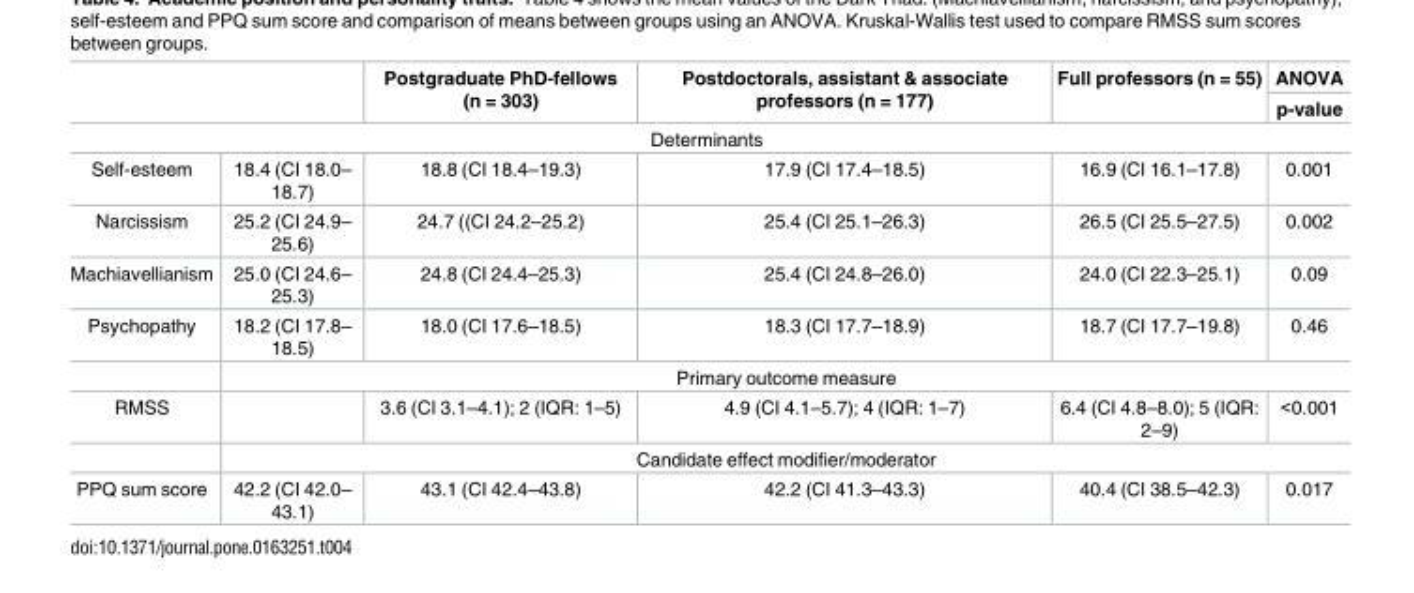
<table><thead><tr><td rowspan="2"></td><td rowspan="2"></td><td rowspan="2">Postgraduate PhD-fellows (n = 303)</td><td rowspan="2">Postdoctorals, assistant &amp; associate professors (n = 177)</td><td rowspan="2">Full professors (n = 55)</td><td rowspan="2">ANOVA p-value</td></tr><tr></tr></thead><tbody><tr><td colspan="6">Determinants</td></tr><tr><td>Self-esteem</td><td>18.4 (CI 18.0– 18.7)</td><td>18.8 (CI 18.4–19.3)</td><td>17.9 (CI 17.4–18.5)</td><td>16.9 (CI 16.1–17.8)</td><td>0.001</td></tr><tr><td>Narcissism</td><td>25.2 (CI 24.9– 25.6)</td><td>24.7 ((CI 24.2–25.2)</td><td>25.4 (CI 25.1–26.3)</td><td>26.5 (CI 25.5–27.5)</td><td>0.002</td></tr><tr><td>Machiavellianism</td><td>25.0 (CI 24.6– 25.3)</td><td>24.8 (CI 24.4–25.3)</td><td>25.4 (CI 24.8–26.0)</td><td>24.0 (CI 22.3–25.1)</td><td>0.09</td></tr><tr><td rowspan="2">Psychopathy</td><td>18.2 (CI 17.8– 18.5)</td><td>18.0 (CI 17.6–18.5)</td><td>18.3 (CI 17.7–18.9)</td><td>18.7 (CI 17.7–19.8)</td><td>0.46</td></tr><tr><td colspan="5">Primary outcome measure</td></tr><tr><td rowspan="2">RMSS</td><td></td><td>3.6 (CI 3.1–4.1); 2 (IQR: 1–5)</td><td>4.9 (CI 4.1–5.7); 4 (IQR: 1–7)</td><td>6.4 (CI 4.8–8.0); 5 (IQR: 2–9)</td><td>&lt;0.001</td></tr><tr><td colspan="5">Candidate effect modifier/moderator</td></tr><tr><td>PPQ sum score</td><td>42.2 (CI 42.0– 43.1)</td><td>43.1 (CI 42.4–43.8)</td><td>42.2 (CI 41.3–43.3)</td><td>40.4 (CI 38.5–42.3)</td><td>0.017</td></tr></tbody></table>